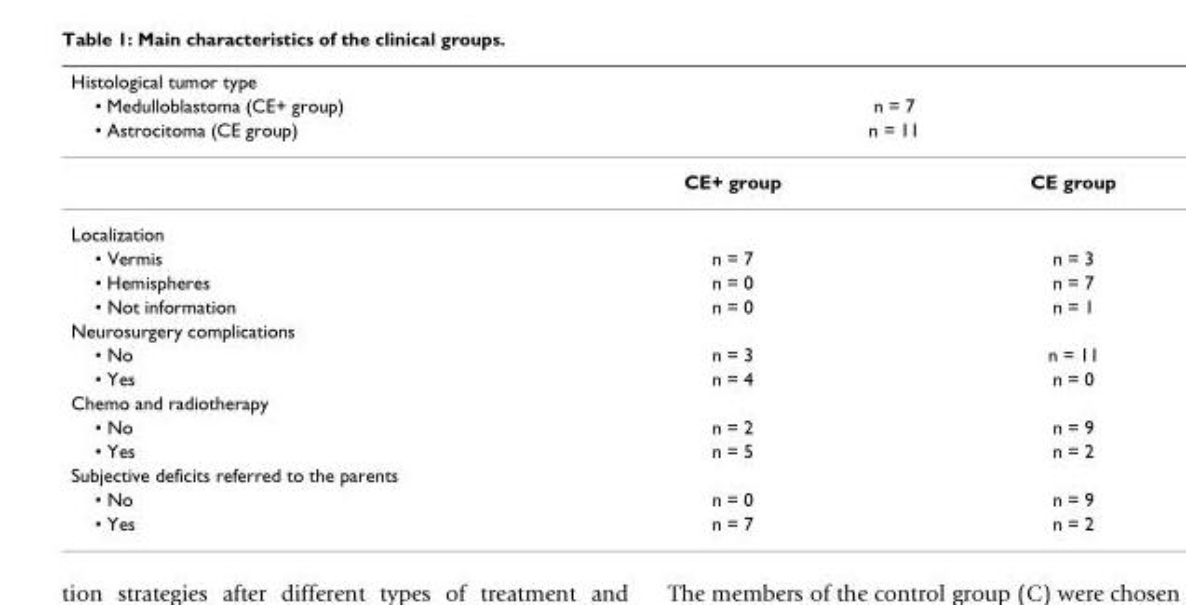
<table><thead><tr><td rowspan="3">Histological tumor type • Medulloblastoma (CE+ group) • Astrocitoma (CE group)</td><td></td><td></td></tr><tr><td rowspan="2" colspan="2">n = 7 n = 11</td></tr><tr></tr></thead><tbody><tr><td></td><td>CE+ group</td><td>CE group</td></tr><tr><td colspan="3">Localization</td></tr><tr><td>• Vermis</td><td>n = 7</td><td>n = 3</td></tr><tr><td>• Hemispheres</td><td>n = 0</td><td>n = 7</td></tr><tr><td>• Not information</td><td>n = 0</td><td>n = 1</td></tr><tr><td colspan="3">Neurosurgery complications</td></tr><tr><td>• No</td><td>n = 3</td><td>n = 11</td></tr><tr><td>• Yes</td><td>n = 4</td><td>n = 0</td></tr><tr><td colspan="3">Chemo and radiotherapy</td></tr><tr><td>• No</td><td>n = 2</td><td>n = 9</td></tr><tr><td>• Yes</td><td>n = 5</td><td>n = 2</td></tr><tr><td colspan="3">Subjective deficits referred to the parents</td></tr><tr><td>• No</td><td>n = 0</td><td>n = 9</td></tr><tr><td>• Yes</td><td>n = 7</td><td>n = 2</td></tr></tbody></table>